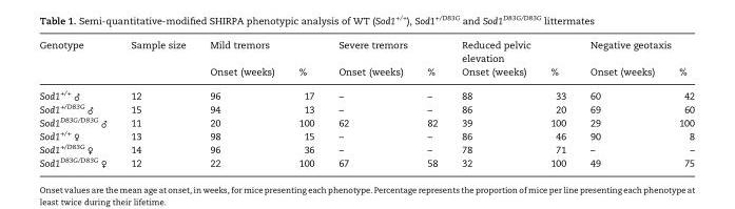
<table><thead><tr><td rowspan="2">Genotype</td><td rowspan="2">Sample size</td><td colspan="2">Mild tremors</td><td colspan="2">Severe tremors</td><td colspan="2">Reduced pelvic elevation</td><td colspan="2">Negative geotaxis</td></tr><tr><td>Onset (weeks)</td><td>%</td><td>Onset (weeks)</td><td>%</td><td>Onset (weeks)</td><td>%</td><td>Onset (weeks)</td><td>%</td></tr></thead><tbody><tr><td>Sod1<sup>+/+</sup> ♂</td><td>12</td><td>96</td><td>17</td><td>–</td><td>–</td><td>88</td><td>33</td><td>60</td><td>42</td></tr><tr><td>Sod1<sup>+/D83G</sup> ♂</td><td>15</td><td>94</td><td>13</td><td>–</td><td>–</td><td>86</td><td>20</td><td>69</td><td>60</td></tr><tr><td>Sod1<sup>D83G/D83G</sup> ♂</td><td>11</td><td>20</td><td>100</td><td>62</td><td>82</td><td>39</td><td>100</td><td>29</td><td>100</td></tr><tr><td>Sod1<sup>+/+</sup> ♀</td><td>13</td><td>98</td><td>15</td><td>–</td><td>–</td><td>86</td><td>46</td><td>90</td><td>8</td></tr><tr><td>Sod1<sup>+/D83G</sup> ♀</td><td>14</td><td>96</td><td>36</td><td>–</td><td>–</td><td>78</td><td>71</td><td>–</td><td>–</td></tr><tr><td>Sod1<sup>D83G/D83G</sup> ♀</td><td>12</td><td>22</td><td>100</td><td>67</td><td>58</td><td>32</td><td>100</td><td>49</td><td>75</td></tr></tbody></table>